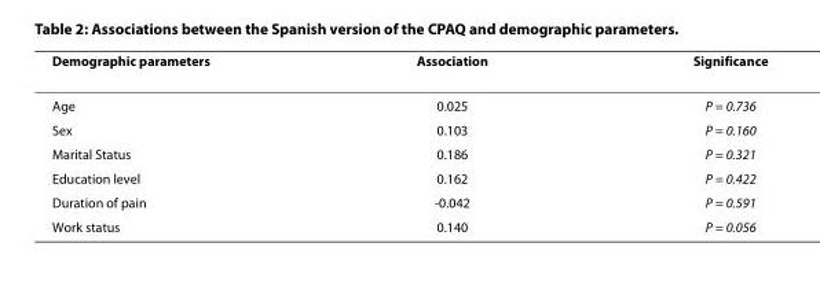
<table><thead><tr><td>Demographic parameters</td><td>Association</td><td>Significance</td></tr></thead><tbody><tr><td>Age</td><td>0.025</td><td>P = 0.736</td></tr><tr><td>Sex</td><td>0.103</td><td>P = 0.160</td></tr><tr><td>Marital Status</td><td>0.186</td><td>P = 0.321</td></tr><tr><td>Education level</td><td>0.162</td><td>P = 0.422</td></tr><tr><td>Duration of pain</td><td>-0.042</td><td>P = 0.591</td></tr><tr><td>Work status</td><td>0.140</td><td>P = 0.056</td></tr></tbody></table>